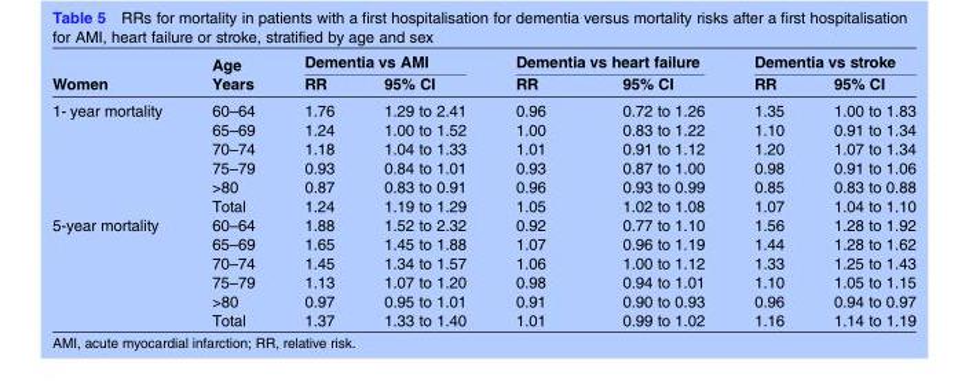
<table><thead><tr><td rowspan="2">Women</td><td rowspan="2">Age Years</td><td colspan="2">Dementia vs AMI</td><td colspan="2">Dementia vs heart failure</td><td colspan="2">Dementia vs stroke</td></tr><tr><td>RR</td><td>95% CI</td><td>RR</td><td>95% CI</td><td>RR</td><td>95% CI</td></tr></thead><tbody><tr><td rowspan="6">1- year mortality</td><td>60–64</td><td>1.76</td><td>1.29 to 2.41</td><td>0.96</td><td>0.72 to 1.26</td><td>1.35</td><td>1.00 to 1.83</td></tr><tr><td>65–69</td><td>1.24</td><td>1.00 to 1.52</td><td>1.00</td><td>0.83 to 1.22</td><td>1.10</td><td>0.91 to 1.34</td></tr><tr><td>70–74</td><td>1.18</td><td>1.04 to 1.33</td><td>1.01</td><td>0.91 to 1.12</td><td>1.20</td><td>1.07 to 1.34</td></tr><tr><td>75–79</td><td>0.93</td><td>0.84 to 1.01</td><td>0.93</td><td>0.87 to 1.00</td><td>0.98</td><td>0.91 to 1.06</td></tr><tr><td>&gt;80</td><td>0.87</td><td>0.83 to 0.91</td><td>0.96</td><td>0.93 to 0.99</td><td>0.85</td><td>0.83 to 0.88</td></tr><tr><td>Total</td><td>1.24</td><td>1.19 to 1.29</td><td>1.05</td><td>1.02 to 1.08</td><td>1.07</td><td>1.04 to 1.10</td></tr><tr><td rowspan="6">5-year mortality</td><td>60–64</td><td>1.88</td><td>1.52 to 2.32</td><td>0.92</td><td>0.77 to 1.10</td><td>1.56</td><td>1.28 to 1.92</td></tr><tr><td>65–69</td><td>1.65</td><td>1.45 to 1.88</td><td>1.07</td><td>0.96 to 1.19</td><td>1.44</td><td>1.28 to 1.62</td></tr><tr><td>70–74</td><td>1.45</td><td>1.34 to 1.57</td><td>1.06</td><td>1.00 to 1.12</td><td>1.33</td><td>1.25 to 1.43</td></tr><tr><td>75–79</td><td>1.13</td><td>1.07 to 1.20</td><td>0.98</td><td>0.94 to 1.01</td><td>1.10</td><td>1.05 to 1.15</td></tr><tr><td>&gt;80</td><td>0.97</td><td>0.95 to 1.01</td><td>0.91</td><td>0.90 to 0.93</td><td>0.96</td><td>0.94 to 0.97</td></tr><tr><td>Total</td><td>1.37</td><td>1.33 to 1.40</td><td>1.01</td><td>0.99 to 1.02</td><td>1.16</td><td>1.14 to 1.19</td></tr></tbody></table>